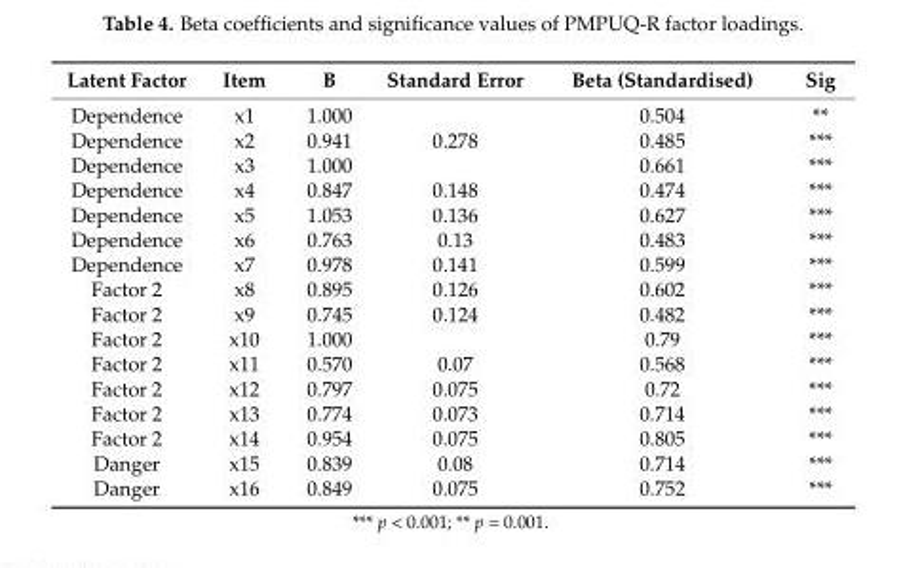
<table><thead><tr><td>Latent Factor</td><td>Item</td><td>B</td><td>Standard Error</td><td>Beta (Standardised)</td><td>Sig</td></tr></thead><tbody><tr><td>Dependence</td><td>x1</td><td>1.000</td><td></td><td>0.504</td><td>**</td></tr><tr><td>Dependence</td><td>x2</td><td>0.941</td><td>0.278</td><td>0.485</td><td>***</td></tr><tr><td>Dependence</td><td>x3</td><td>1.000</td><td></td><td>0.661</td><td>***</td></tr><tr><td>Dependence</td><td>x4</td><td>0.847</td><td>0.148</td><td>0.474</td><td>***</td></tr><tr><td>Dependence</td><td>x5</td><td>1.053</td><td>0.136</td><td>0.627</td><td>***</td></tr><tr><td>Dependence</td><td>x6</td><td>0.763</td><td>0.13</td><td>0.483</td><td>***</td></tr><tr><td>Dependence</td><td>x7</td><td>0.978</td><td>0.141</td><td>0.599</td><td>***</td></tr><tr><td>Factor 2</td><td>x8</td><td>0.895</td><td>0.126</td><td>0.602</td><td>***</td></tr><tr><td>Factor 2</td><td>x9</td><td>0.745</td><td>0.124</td><td>0.482</td><td>***</td></tr><tr><td>Factor 2</td><td>x10</td><td>1.000</td><td></td><td>0.79</td><td>***</td></tr><tr><td>Factor 2</td><td>x11</td><td>0.570</td><td>0.07</td><td>0.568</td><td>***</td></tr><tr><td>Factor 2</td><td>x12</td><td>0.797</td><td>0.075</td><td>0.72</td><td>***</td></tr><tr><td>Factor 2</td><td>x13</td><td>0.774</td><td>0.073</td><td>0.714</td><td>***</td></tr><tr><td>Factor 2</td><td>x14</td><td>0.954</td><td>0.075</td><td>0.805</td><td>***</td></tr><tr><td>Danger</td><td>x15</td><td>0.839</td><td>0.08</td><td>0.714</td><td>***</td></tr><tr><td>Danger</td><td>x16</td><td>0.849</td><td>0.075</td><td>0.752</td><td>***</td></tr></tbody></table>